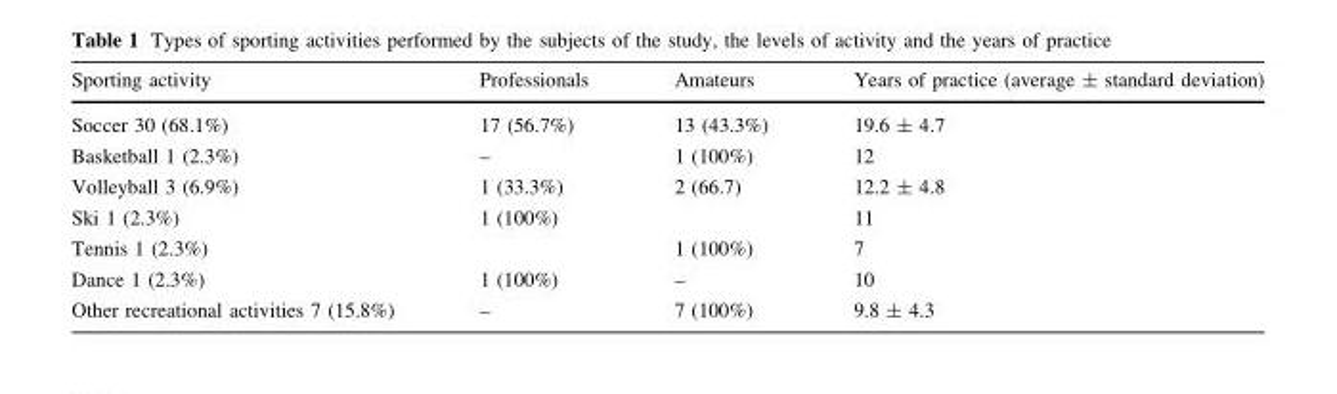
<table><thead><tr><td>Sporting activity</td><td>Professionals</td><td>Amateurs</td><td>Years of practice (average ± standard deviation)</td></tr></thead><tbody><tr><td>Soccer 30 (68.1%)</td><td>17 (56.7%)</td><td>13 (43.3%)</td><td>19.6 ± 4.7</td></tr><tr><td>Basketball 1 (2.3%)</td><td>–</td><td>1 (100%)</td><td>12</td></tr><tr><td>Volleyball 3 (6.9%)</td><td>1 (33.3%)</td><td>2 (66.7)</td><td>12.2 ± 4.8</td></tr><tr><td>Ski 1 (2.3%)</td><td>1 (100%)</td><td></td><td>11</td></tr><tr><td>Tennis 1 (2.3%)</td><td></td><td>1 (100%)</td><td>7</td></tr><tr><td>Dance 1 (2.3%)</td><td>1 (100%)</td><td>–</td><td>10</td></tr><tr><td>Other recreational activities 7 (15.8%)</td><td>–</td><td>7 (100%)</td><td>9.8 ± 4.3</td></tr></tbody></table>